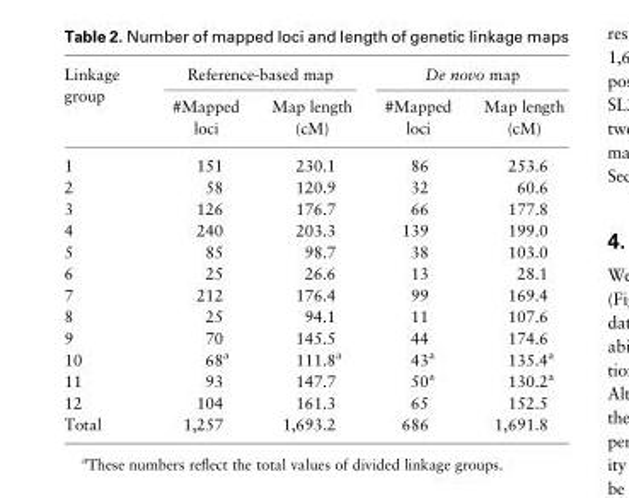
<table><thead><tr><td rowspan="2">Linkage group</td><td colspan="2">Reference-based map</td><td colspan="2">De novo map</td></tr><tr><td>#Mapped loci</td><td>Map length (cM)</td><td>#Mapped loci</td><td>Map length (cM)</td></tr></thead><tbody><tr><td>1</td><td>151</td><td>230.1</td><td>86</td><td>253.6</td></tr><tr><td>2</td><td>58</td><td>120.9</td><td>32</td><td>60.6</td></tr><tr><td>3</td><td>126</td><td>176.7</td><td>66</td><td>177.8</td></tr><tr><td>4</td><td>240</td><td>203.3</td><td>139</td><td>199.0</td></tr><tr><td>5</td><td>85</td><td>98.7</td><td>38</td><td>103.0</td></tr><tr><td>6</td><td>25</td><td>26.6</td><td>13</td><td>28.1</td></tr><tr><td>7</td><td>212</td><td>176.4</td><td>99</td><td>169.4</td></tr><tr><td>8</td><td>25</td><td>94.1</td><td>11</td><td>107.6</td></tr><tr><td>9</td><td>70</td><td>145.5</td><td>44</td><td>174.6</td></tr><tr><td>10</td><td>68<sup>a</sup></td><td>111.8<sup>a</sup></td><td>43<sup>a</sup></td><td>135.4<sup>a</sup></td></tr><tr><td>11</td><td>93</td><td>147.7</td><td>50<sup>a</sup></td><td>130.2<sup>a</sup></td></tr><tr><td>12</td><td>104</td><td>161.3</td><td>65</td><td>152.5</td></tr><tr><td>Total</td><td>1,257</td><td>1,693.2</td><td>686</td><td>1,691.8</td></tr></tbody></table>